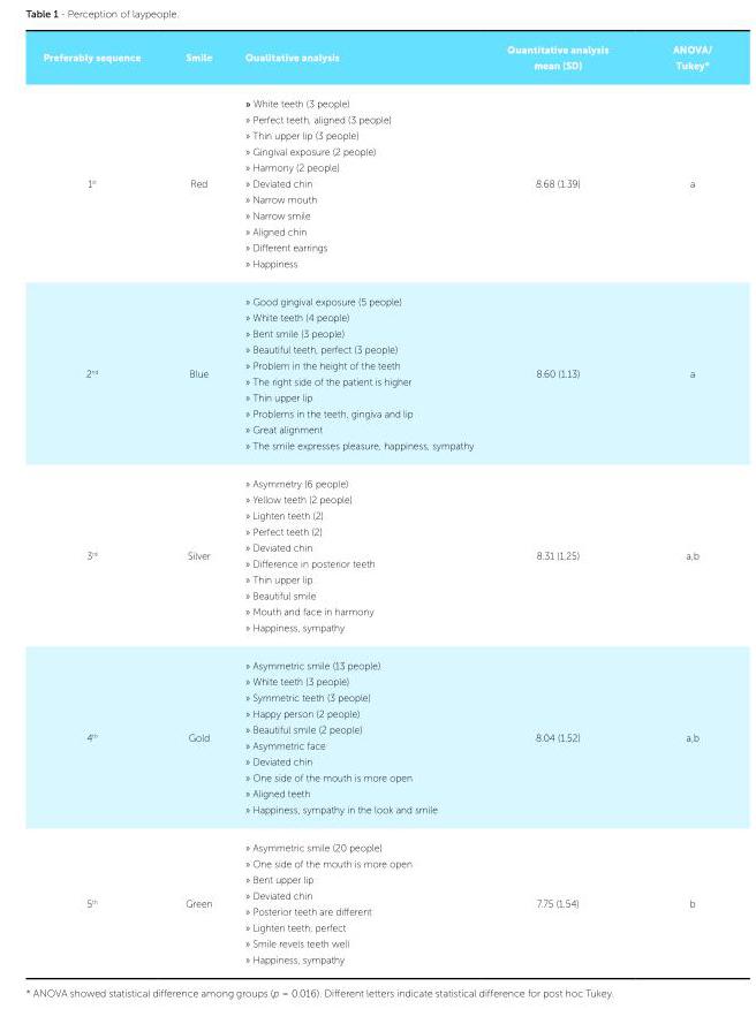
<table><thead><tr><td>Preferably sequence</td><td>Smile</td><td>Qualitative analysis</td><td>Quantitative analysis mean (SD)</td><td>ANOVA/ Tukey*</td></tr></thead><tbody><tr><td>1<sup>st</sup></td><td>Red</td><td>» White teeth (3 people) » Perfect teeth, aligned (3 people) » Thin upper lip (3 people) » Gingival exposure (2 people) » Harmony (2 people) » Deviated chin » Narrow mouth » Narrow smile » Aligned chin » Different earrings » Happiness</td><td>8.68 (1.39)</td><td>a</td></tr><tr><td>2<sup>nd</sup></td><td>Blue</td><td>» Good gingival exposure (5 people) » White teeth (4 people) » Bent smile (3 people) » Beautiful teeth, perfect (3 people) » Problem in the height of the teeth » The right side of the patient is higher » Thin upper lip » Problems in the teeth, gingiva and lip » Great alignment » The smile expresses pleasure, happiness, sympathy</td><td>8.60 (1.13)</td><td>a</td></tr><tr><td>3<sup>rd</sup></td><td>Silver</td><td>» Asymmetry (6 people) » Yellow teeth (2 people) » Lighten teeth (2) » Perfect teeth (2) » Deviated chin » Difference in posterior teeth » Thin upper lip » Beautiful smile » Mouth and face in harmony » Happiness, sympathy</td><td>8.31 (1.25)</td><td>a,b</td></tr><tr><td>4<sup>th</sup></td><td>Gold</td><td>» Asymmetric smile (13 people) » White teeth (3 people) » Symmetric teeth (3 people) » Happy person (2 people) » Beautiful smile (2 people) » Asymmetric face » Deviated chin » One side of the mouth is more open » Aligned teeth » Happiness, sympathy in the look and smile</td><td>8.04 (1.52)</td><td>a,b</td></tr><tr><td>5<sup>th</sup></td><td>Green</td><td>» Asymmetric smile (20 people) » One side of the mouth is more open » Bent upper lip » Deviated chin » Posterior teeth are different » Lighten teeth, perfect » Smile revels teeth well » Happiness, sympathy</td><td>7.75 (1.54)</td><td>b</td></tr></tbody></table>